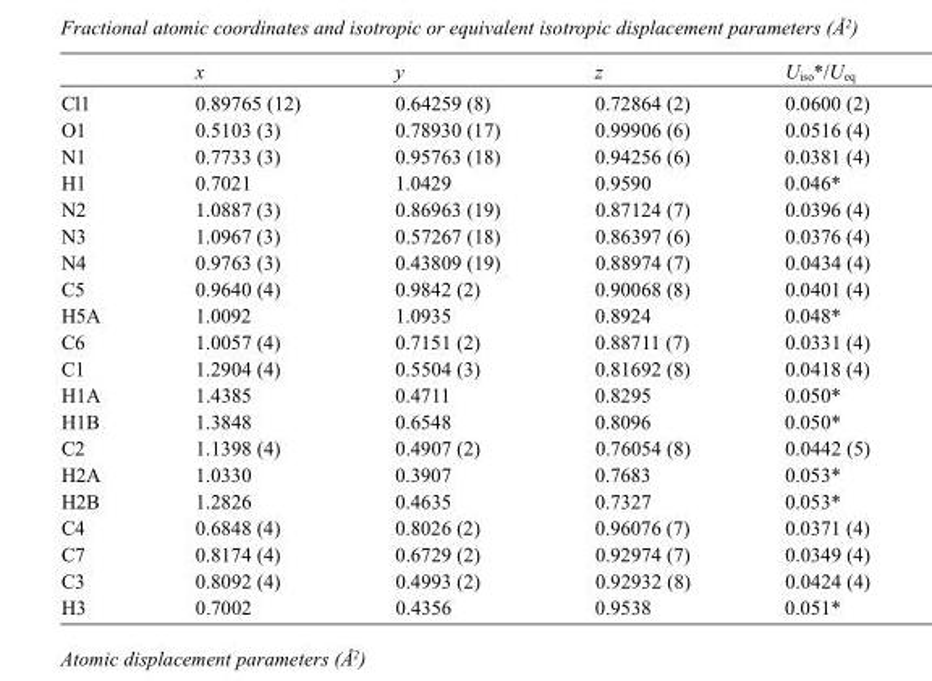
<table><thead><tr><td></td><td>x</td><td>y</td><td>z</td><td>U<sub>iso</sub>*/U<sub>eq</sub></td></tr></thead><tbody><tr><td>Cl1</td><td>0.89765 (12)</td><td>0.64259 (8)</td><td>0.72864 (2)</td><td>0.0600 (2)</td></tr><tr><td>O1</td><td>0.5103 (3)</td><td>0.78930 (17)</td><td>0.99906 (6)</td><td>0.0516 (4)</td></tr><tr><td>N1</td><td>0.7733 (3)</td><td>0.95763 (18)</td><td>0.94256 (6)</td><td>0.0381 (4)</td></tr><tr><td>H1</td><td>0.7021</td><td>1.0429</td><td>0.9590</td><td>0.046*</td></tr><tr><td>N2</td><td>1.0887 (3)</td><td>0.86963 (19)</td><td>0.87124 (7)</td><td>0.0396 (4)</td></tr><tr><td>N3</td><td>1.0967 (3)</td><td>0.57267 (18)</td><td>0.86397 (6)</td><td>0.0376 (4)</td></tr><tr><td>N4</td><td>0.9763 (3)</td><td>0.43809 (19)</td><td>0.88974 (7)</td><td>0.0434 (4)</td></tr><tr><td>C5</td><td>0.9640 (4)</td><td>0.9842 (2)</td><td>0.90068 (8)</td><td>0.0401 (4)</td></tr><tr><td>H5A</td><td>1.0092</td><td>1.0935</td><td>0.8924</td><td>0.048*</td></tr><tr><td>C6</td><td>1.0057 (4)</td><td>0.7151 (2)</td><td>0.88711 (7)</td><td>0.0331 (4)</td></tr><tr><td>C1</td><td>1.2904 (4)</td><td>0.5504 (3)</td><td>0.81692 (8)</td><td>0.0418 (4)</td></tr><tr><td>H1A</td><td>1.4385</td><td>0.4711</td><td>0.8295</td><td>0.050*</td></tr><tr><td>H1B</td><td>1.3848</td><td>0.6548</td><td>0.8096</td><td>0.050*</td></tr><tr><td>C2</td><td>1.1398 (4)</td><td>0.4907 (2)</td><td>0.76054 (8)</td><td>0.0442 (5)</td></tr><tr><td>H2A</td><td>1.0330</td><td>0.3907</td><td>0.7683</td><td>0.053*</td></tr><tr><td>H2B</td><td>1.2826</td><td>0.4635</td><td>0.7327</td><td>0.053*</td></tr><tr><td>C4</td><td>0.6848 (4)</td><td>0.8026 (2)</td><td>0.96076 (7)</td><td>0.0371 (4)</td></tr><tr><td>C7</td><td>0.8174 (4)</td><td>0.6729 (2)</td><td>0.92974 (7)</td><td>0.0349 (4)</td></tr><tr><td>C3</td><td>0.8092 (4)</td><td>0.4993 (2)</td><td>0.92932 (8)</td><td>0.0424 (4)</td></tr><tr><td>H3</td><td>0.7002</td><td>0.4356</td><td>0.9538</td><td>0.051*</td></tr></tbody></table>